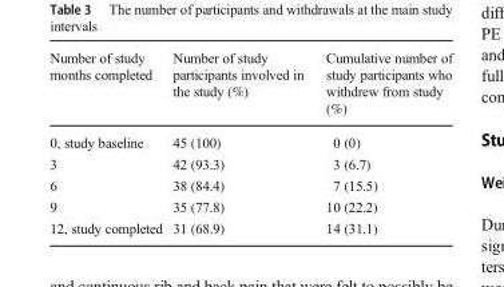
<table><thead><tr><td>Number of study months completed</td><td>Number of study participants involved in the study (%)</td><td>Cumulative number of study participants who withdrew from study (%)</td></tr></thead><tbody><tr><td>0, study baseline</td><td>45 (100)</td><td>0 (0)</td></tr><tr><td>3</td><td>42 (93.3)</td><td>3 (6.7)</td></tr><tr><td>6</td><td>38 (84.4)</td><td>7 (15.5)</td></tr><tr><td>9</td><td>35 (77.8)</td><td>10 (22.2)</td></tr><tr><td>12, study completed</td><td>31 (68.9)</td><td>14 (31.1)</td></tr></tbody></table>